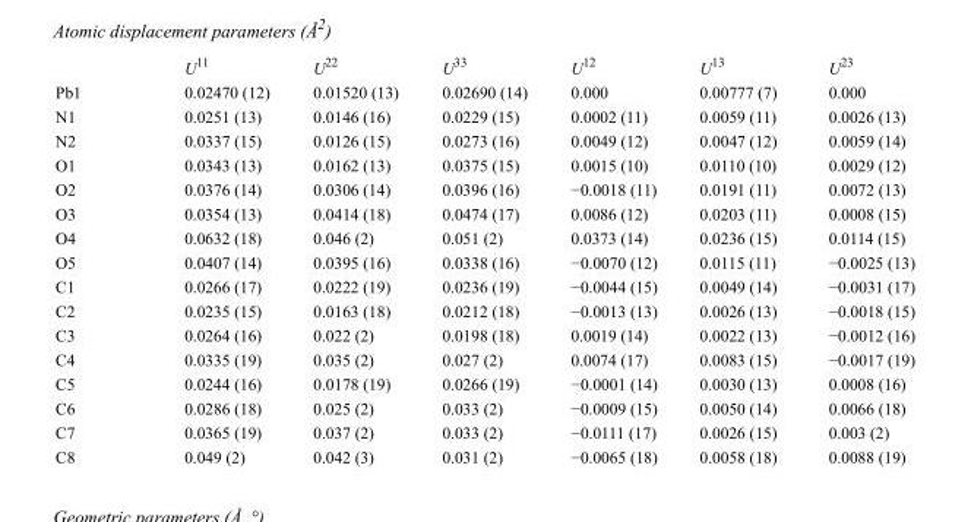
<table><thead><tr><td></td><td>U<sup>11</sup></td><td>U<sup>22</sup></td><td>U<sup>33</sup></td><td>U<sup>12</sup></td><td>U<sup>13</sup></td><td>U<sup>23</sup></td></tr></thead><tbody><tr><td>Pb1</td><td>0.02470 (12)</td><td>0.01520 (13)</td><td>0.02690 (14)</td><td>0.000</td><td>0.00777 (7)</td><td>0.000</td></tr><tr><td>N1</td><td>0.0251 (13)</td><td>0.0146 (16)</td><td>0.0229 (15)</td><td>0.0002 (11)</td><td>0.0059 (11)</td><td>0.0026 (13)</td></tr><tr><td>N2</td><td>0.0337 (15)</td><td>0.0126 (15)</td><td>0.0273 (16)</td><td>0.0049 (12)</td><td>0.0047 (12)</td><td>0.0059 (14)</td></tr><tr><td>O1</td><td>0.0343 (13)</td><td>0.0162 (13)</td><td>0.0375 (15)</td><td>0.0015 (10)</td><td>0.0110 (10)</td><td>0.0029 (12)</td></tr><tr><td>O2</td><td>0.0376 (14)</td><td>0.0306 (14)</td><td>0.0396 (16)</td><td>−0.0018 (11)</td><td>0.0191 (11)</td><td>0.0072 (13)</td></tr><tr><td>O3</td><td>0.0354 (13)</td><td>0.0414 (18)</td><td>0.0474 (17)</td><td>0.0086 (12)</td><td>0.0203 (11)</td><td>0.0008 (15)</td></tr><tr><td>O4</td><td>0.0632 (18)</td><td>0.046 (2)</td><td>0.051 (2)</td><td>0.0373 (14)</td><td>0.0236 (15)</td><td>0.0114 (15)</td></tr><tr><td>O5</td><td>0.0407 (14)</td><td>0.0395 (16)</td><td>0.0338 (16)</td><td>−0.0070 (12)</td><td>0.0115 (11)</td><td>−0.0025 (13)</td></tr><tr><td>C1</td><td>0.0266 (17)</td><td>0.0222 (19)</td><td>0.0236 (19)</td><td>−0.0044 (15)</td><td>0.0049 (14)</td><td>−0.0031 (17)</td></tr><tr><td>C2</td><td>0.0235 (15)</td><td>0.0163 (18)</td><td>0.0212 (18)</td><td>−0.0013 (13)</td><td>0.0026 (13)</td><td>−0.0018 (15)</td></tr><tr><td>C3</td><td>0.0264 (16)</td><td>0.022 (2)</td><td>0.0198 (18)</td><td>0.0019 (14)</td><td>0.0022 (13)</td><td>−0.0012 (16)</td></tr><tr><td>C4</td><td>0.0335 (19)</td><td>0.035 (2)</td><td>0.027 (2)</td><td>0.0074 (17)</td><td>0.0083 (15)</td><td>−0.0017 (19)</td></tr><tr><td>C5</td><td>0.0244 (16)</td><td>0.0178 (19)</td><td>0.0266 (19)</td><td>−0.0001 (14)</td><td>0.0030 (13)</td><td>0.0008 (16)</td></tr><tr><td>C6</td><td>0.0286 (18)</td><td>0.025 (2)</td><td>0.033 (2)</td><td>−0.0009 (15)</td><td>0.0050 (14)</td><td>0.0066 (18)</td></tr><tr><td>C7</td><td>0.0365 (19)</td><td>0.037 (2)</td><td>0.033 (2)</td><td>−0.0111 (17)</td><td>0.0026 (15)</td><td>0.003 (2)</td></tr><tr><td>C8</td><td>0.049 (2)</td><td>0.042 (3)</td><td>0.031 (2)</td><td>−0.0065 (18)</td><td>0.0058 (18)</td><td>0.0088 (19)</td></tr></tbody></table>